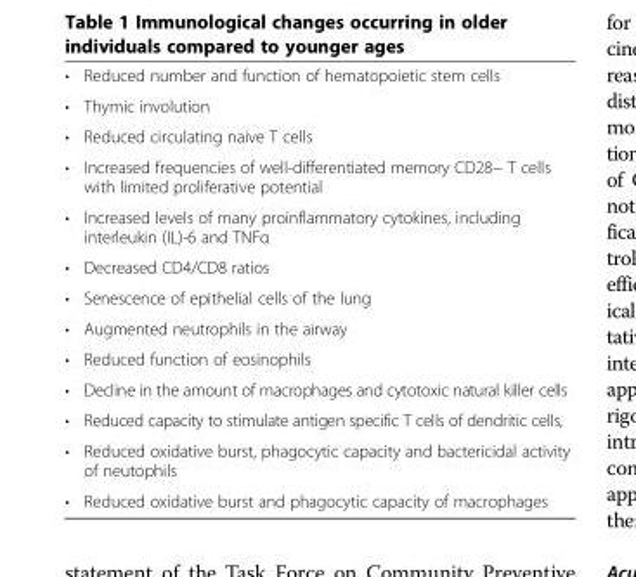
<table><tbody><tr><td>•</td><td>Reduced number and function of hematopoietic stem cells</td></tr><tr><td>•</td><td>Thymic involution</td></tr><tr><td>•</td><td>Reduced circulating naive T cells</td></tr><tr><td>•</td><td>Increased frequencies of well-differentiated memory CD28− T cells with limited proliferative potential</td></tr><tr><td>•</td><td>Increased levels of many proinflammatory cytokines, including interleukin (IL)-6 and TNFα</td></tr><tr><td>•</td><td>Decreased CD4/CD8 ratios</td></tr><tr><td>•</td><td>Senescence of epithelial cells of the lung</td></tr><tr><td>•</td><td>Augmented neutrophils in the airway</td></tr><tr><td>•</td><td>Reduced function of eosinophils</td></tr><tr><td>•</td><td>Decline in the amount of macrophages and cytotoxic natural killer cells</td></tr><tr><td>•</td><td>Reduced capacity to stimulate antigen specific T cells of dendritic cells,</td></tr><tr><td>•</td><td>Reduced oxidative burst, phagocytic capacity and bactericidal activity of neutophils</td></tr><tr><td>•</td><td>Reduced oxidative burst and phagocytic capacity of macrophages</td></tr></tbody></table>